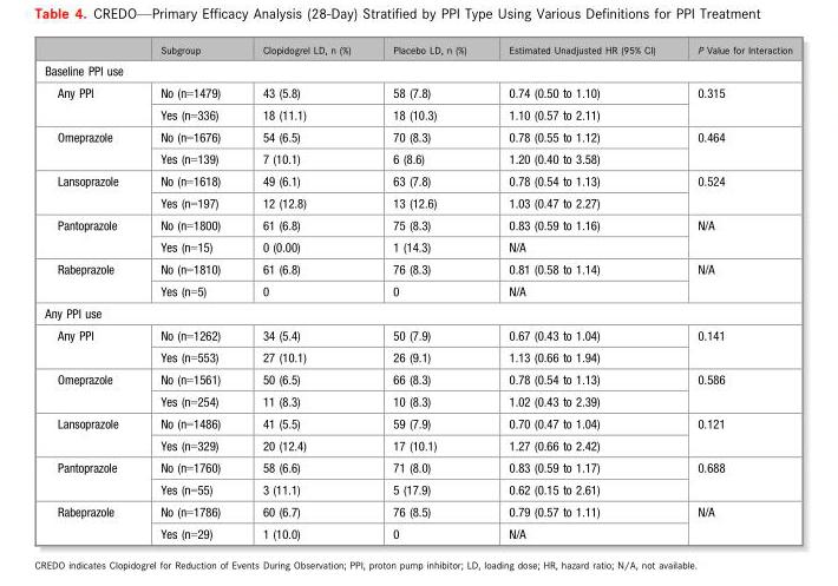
<table><thead><tr><td></td><td>Subgroup</td><td>Clopidogrel LD, n (%)</td><td>Placebo LD, n (%)</td><td>Estimated Unadjusted HR (95% CI)</td><td>P Value for Interaction</td></tr></thead><tbody><tr><td colspan="6">Baseline PPI use</td></tr><tr><td rowspan="2">Any PPI</td><td>No (n=1479)</td><td>43 (5.8)</td><td>58 (7.8)</td><td>0.74 (0.50 to 1.10)</td><td rowspan="2">0.315</td></tr><tr><td>Yes (n=336)</td><td>18 (11.1)</td><td>18 (10.3)</td><td>1.10 (0.57 to 2.11)</td></tr><tr><td rowspan="2">Omeprazole</td><td>No (n=1676)</td><td>54 (6.5)</td><td>70 (8.3)</td><td>0.78 (0.55 to 1.12)</td><td rowspan="2">0.464</td></tr><tr><td>Yes (n=139)</td><td>7 (10.1)</td><td>6 (8.6)</td><td>1.20 (0.40 to 3.58)</td></tr><tr><td rowspan="2">Lansoprazole</td><td>No (n=1618)</td><td>49 (6.1)</td><td>63 (7.8)</td><td>0.78 (0.54 to 1.13)</td><td rowspan="2">0.524</td></tr><tr><td>Yes (n=197)</td><td>12 (12.8)</td><td>13 (12.6)</td><td>1.03 (0.47 to 2.27)</td></tr><tr><td rowspan="2">Pantoprazole</td><td>No (n=1800)</td><td>61 (6.8)</td><td>75 (8.3)</td><td>0.83 (0.59 to 1.16)</td><td rowspan="2">N/A</td></tr><tr><td>Yes (n=15)</td><td>0 (0.00)</td><td>1 (14.3)</td><td>N/A</td></tr><tr><td rowspan="2">Rabeprazole</td><td>No (n=1810)</td><td>61 (6.8)</td><td>76 (8.3)</td><td>0.81 (0.58 to 1.14)</td><td rowspan="2">N/A</td></tr><tr><td>Yes (n=5)</td><td>0</td><td>0</td><td>N/A</td></tr><tr><td colspan="6">Any PPI use</td></tr><tr><td rowspan="2">Any PPI</td><td>No (n=1262)</td><td>34 (5.4)</td><td>50 (7.9)</td><td>0.67 (0.43 to 1.04)</td><td rowspan="2">0.141</td></tr><tr><td>Yes (n=553)</td><td>27 (10.1)</td><td>26 (9.1)</td><td>1.13 (0.66 to 1.94)</td></tr><tr><td rowspan="2">Omeprazole</td><td>No (n=1561)</td><td>50 (6.5)</td><td>66 (8.3)</td><td>0.78 (0.54 to 1.13)</td><td rowspan="2">0.586</td></tr><tr><td>Yes (n=254)</td><td>11 (8.3)</td><td>10 (8.3)</td><td>1.02 (0.43 to 2.39)</td></tr><tr><td rowspan="2">Lansoprazole</td><td>No (n=1486)</td><td>41 (5.5)</td><td>59 (7.9)</td><td>0.70 (0.47 to 1.04)</td><td rowspan="2">0.121</td></tr><tr><td>Yes (n=329)</td><td>20 (12.4)</td><td>17 (10.1)</td><td>1.27 (0.66 to 2.42)</td></tr><tr><td rowspan="2">Pantoprazole</td><td>No (n=1760)</td><td>58 (6.6)</td><td>71 (8.0)</td><td>0.83 (0.59 to 1.17)</td><td rowspan="2">0.688</td></tr><tr><td>Yes (n=55)</td><td>3 (11.1)</td><td>5 (17.9)</td><td>0.62 (0.15 to 2.61)</td></tr><tr><td rowspan="2">Rabeprazole</td><td>No (n=1786)</td><td>60 (6.7)</td><td>76 (8.5)</td><td>0.79 (0.57 to 1.11)</td><td rowspan="2">N/A</td></tr><tr><td>Yes (n=29)</td><td>1 (10.0)</td><td>0</td><td>N/A</td></tr></tbody></table>